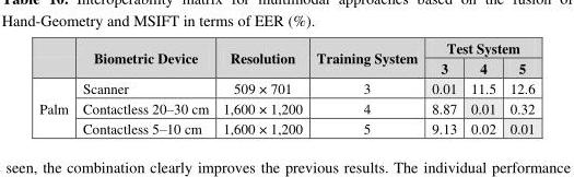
<table><thead><tr><td rowspan="2"></td><td rowspan="2">Biometric Device</td><td rowspan="2">Resolution</td><td rowspan="2">Training System</td><td colspan="3">Test System</td></tr><tr><td>3</td><td>4</td><td>5</td></tr></thead><tbody><tr><td rowspan="3">Palm</td><td>Scanner</td><td>509 × 701</td><td>3</td><td>0.01</td><td>11.5</td><td>12.6</td></tr><tr><td>Contactless 20–30 cm</td><td>1,600 × 1,200</td><td>4</td><td>8.87</td><td>0.01</td><td>0.32</td></tr><tr><td>Contactless 5–10 cm</td><td>1,600 × 1,200</td><td>5</td><td>9.13</td><td>0.02</td><td>0.01</td></tr></tbody></table>